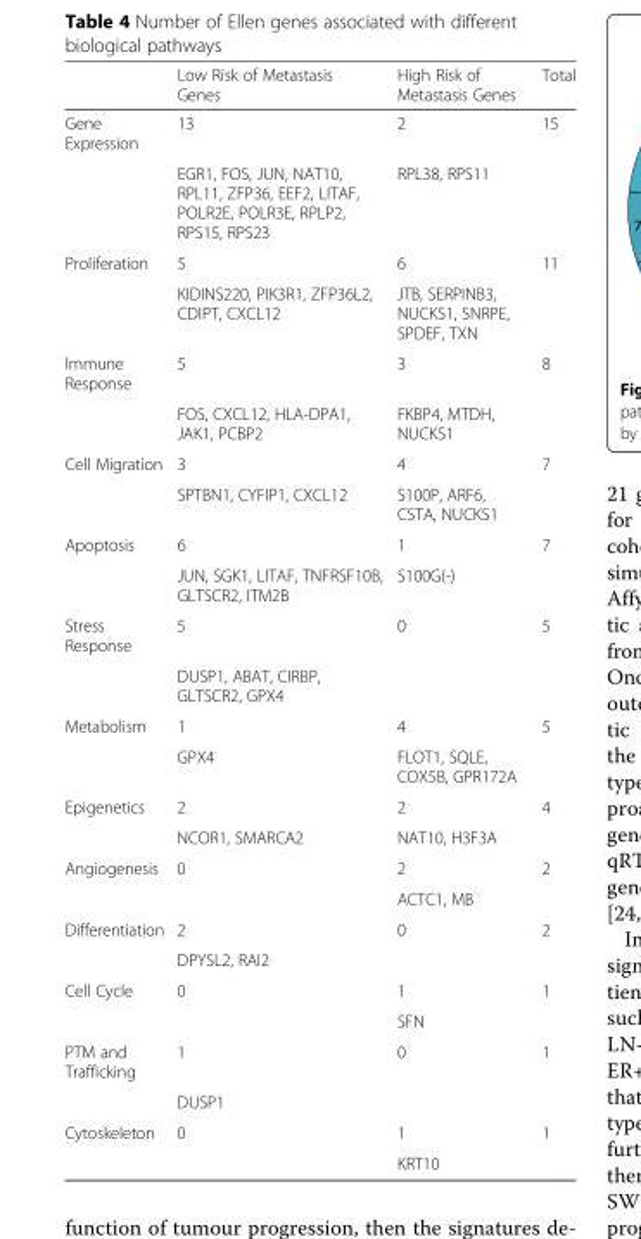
<table><thead><tr><td></td><td>Low Risk of Metastasis Genes</td><td>High Risk of Metastasis Genes</td><td>Total</td></tr></thead><tbody><tr><td rowspan="2">Gene Expression</td><td>13</td><td>2</td><td>15</td></tr><tr><td>EGR1, FOS, JUN, NAT10, RPL11, ZFP36, EEF2, LITAF, POLR2E, POLR3E, RPLP2, RPS15, RPS23</td><td>RPL38, RPS11</td><td></td></tr><tr><td rowspan="2">Proliferation</td><td>5</td><td>6</td><td>11</td></tr><tr><td>KIDINS220, PIK3R1, ZFP36L2, CDIPT, CXCL12</td><td>JTB, SERPINB3, NUCKS1, SNRPE, SPDEF, TXN</td><td></td></tr><tr><td rowspan="2">Immune Response</td><td>5</td><td>3</td><td>8</td></tr><tr><td>FOS, CXCL12, HLA-DPA1, JAK1, PCBP2</td><td>FKBP4, MTDH, NUCKS1</td><td></td></tr><tr><td rowspan="2">Cell Migration</td><td>3</td><td>4</td><td>7</td></tr><tr><td>SPTBN1, CYFIP1, CXCL12</td><td>S100P, ARF6, CSTA, NUCKS1</td><td></td></tr><tr><td rowspan="2">Apoptosis</td><td>6</td><td>1</td><td>7</td></tr><tr><td>JUN, SGK1, LITAF, TNFRSF10B, GLTSCR2, ITM2B</td><td>S100G(-)</td><td></td></tr><tr><td rowspan="2">Stress Response</td><td>5</td><td>0</td><td>5</td></tr><tr><td>DUSP1, ABAT, CIRBP, GLTSCR2, GPX4</td><td></td><td></td></tr><tr><td rowspan="2">Metabolism</td><td>1</td><td>4</td><td>5</td></tr><tr><td>GPX4</td><td>FLOT1, SQLE, COX5B, GPR172A</td><td></td></tr><tr><td rowspan="2">Epigenetics</td><td>2</td><td>2</td><td>4</td></tr><tr><td>NCOR1, SMARCA2</td><td>NAT10, H3F3A</td><td></td></tr><tr><td rowspan="2">Angiogenesis</td><td>0</td><td>2</td><td>2</td></tr><tr><td></td><td>ACTC1, MB</td><td></td></tr><tr><td rowspan="2">Differentiation</td><td>2</td><td>0</td><td>2</td></tr><tr><td>DPYSL2, RAI2</td><td></td><td></td></tr><tr><td rowspan="2">Cell Cycle</td><td>0</td><td>1</td><td>1</td></tr><tr><td></td><td>SFN</td><td></td></tr><tr><td rowspan="2">PTM and Trafficking</td><td>1</td><td>0</td><td>1</td></tr><tr><td>DUSP1</td><td></td><td></td></tr><tr><td rowspan="2">Cytoskeleton</td><td>0</td><td>1</td><td>1</td></tr><tr><td></td><td>KRT10</td><td></td></tr></tbody></table>